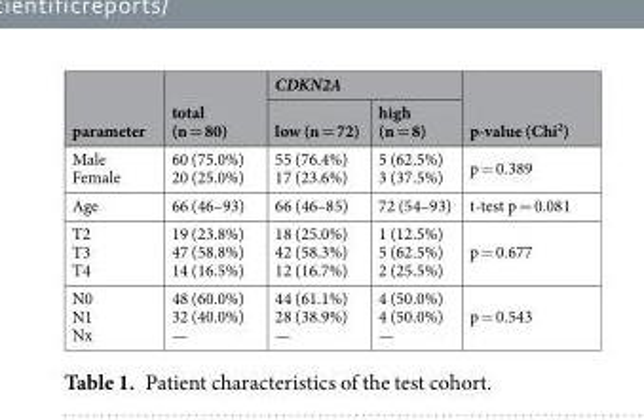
<table><thead><tr><td rowspan="2">parameter</td><td rowspan="2">total (n = 80)</td><td colspan="2">CDKN2A</td><td rowspan="2">p-value (Chi<sup>2</sup>)</td></tr><tr><td>low (n = 72)</td><td>high (n = 8)</td></tr></thead><tbody><tr><td>Male Female</td><td>60 (75.0%) 20 (25.0%)</td><td>55 (76.4%) 17 (23.6%)</td><td>5 (62.5%) 3 (37.5%)</td><td>p = 0.389</td></tr><tr><td>Age</td><td>66 (46–93)</td><td>66 (46–85)</td><td>72 (54–93)</td><td>t-test p = 0.081</td></tr><tr><td>T2 T3 T4</td><td>19 (23.8%) 47 (58.8%) 14 (16.5%)</td><td>18 (25.0%) 42 (58.3%) 12 (16.7%)</td><td>1 (12.5%) 5 (62.5%) 2 (25.5%)</td><td>p = 0.677</td></tr><tr><td>N0 N1 Nx</td><td>48 (60.0%) 32 (40.0%) —</td><td>44 (61.1%) 28 (38.9%) —</td><td>4 (50.0%) 4 (50.0%) —</td><td>p = 0.543</td></tr></tbody></table>